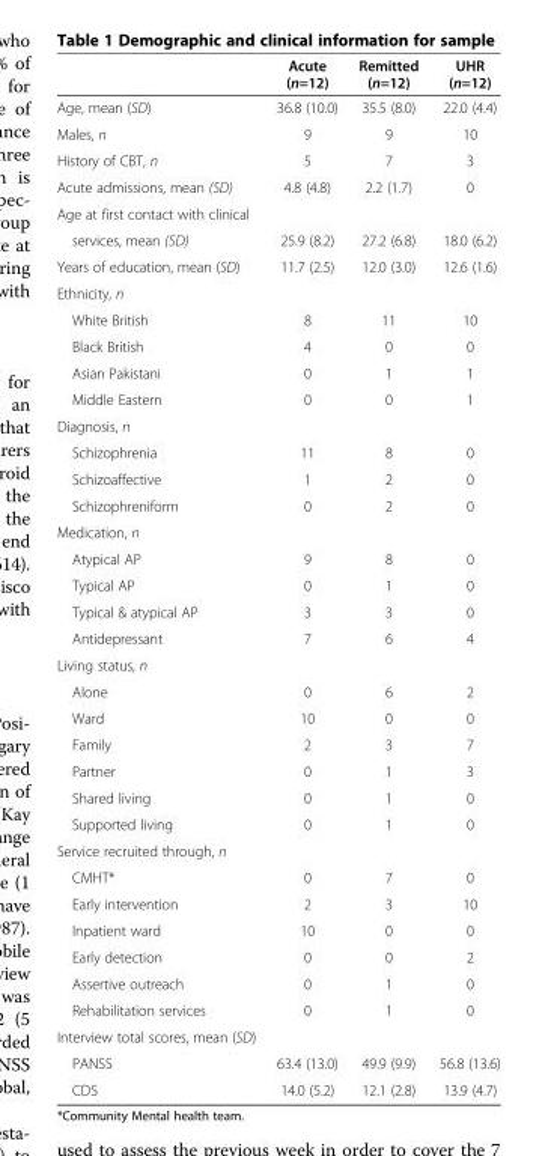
<table><thead><tr><td></td><td>Acute (n=12)</td><td>Remitted (n=12)</td><td>UHR (n=12)</td></tr></thead><tbody><tr><td>Age, mean (SD)</td><td>36.8 (10.0)</td><td>35.5 (8.0)</td><td>22.0 (4.4)</td></tr><tr><td>Males, n</td><td>9</td><td>9</td><td>10</td></tr><tr><td>History of CBT, n</td><td>5</td><td>7</td><td>3</td></tr><tr><td>Acute admissions, mean (SD)</td><td>4.8 (4.8)</td><td>2.2 (1.7)</td><td>0</td></tr><tr><td colspan="4">Age at first contact with clinical</td></tr><tr><td>services, mean (SD)</td><td>25.9 (8.2)</td><td>27.2 (6.8)</td><td>18.0 (6.2)</td></tr><tr><td>Years of education, mean (SD)</td><td>11.7 (2.5)</td><td>12.0 (3.0)</td><td>12.6 (1.6)</td></tr><tr><td colspan="4">Ethnicity, n</td></tr><tr><td>White British</td><td>8</td><td>11</td><td>10</td></tr><tr><td>Black British</td><td>4</td><td>0</td><td>0</td></tr><tr><td>Asian Pakistani</td><td>0</td><td>1</td><td>1</td></tr><tr><td>Middle Eastern</td><td>0</td><td>0</td><td>1</td></tr><tr><td colspan="4">Diagnosis, n</td></tr><tr><td>Schizophrenia</td><td>11</td><td>8</td><td>0</td></tr><tr><td>Schizoaffective</td><td>1</td><td>2</td><td>0</td></tr><tr><td>Schizophreniform</td><td>0</td><td>2</td><td>0</td></tr><tr><td colspan="4">Medication, n</td></tr><tr><td>Atypical AP</td><td>9</td><td>8</td><td>0</td></tr><tr><td>Typical AP</td><td>0</td><td>1</td><td>0</td></tr><tr><td>Typical &amp; atypical AP</td><td>3</td><td>3</td><td>0</td></tr><tr><td>Antidepressant</td><td>7</td><td>6</td><td>4</td></tr><tr><td colspan="4">Living status, n</td></tr><tr><td>Alone</td><td>0</td><td>6</td><td>2</td></tr><tr><td>Ward</td><td>10</td><td>0</td><td>0</td></tr><tr><td>Family</td><td>2</td><td>3</td><td>7</td></tr><tr><td>Partner</td><td>0</td><td>1</td><td>3</td></tr><tr><td>Shared living</td><td>0</td><td>1</td><td>0</td></tr><tr><td>Supported living</td><td>0</td><td>1</td><td>0</td></tr><tr><td colspan="4">Service recruited through, n</td></tr><tr><td>CMHT*</td><td>0</td><td>7</td><td>0</td></tr><tr><td>Early intervention</td><td>2</td><td>3</td><td>10</td></tr><tr><td>Inpatient ward</td><td>10</td><td>0</td><td>0</td></tr><tr><td>Early detection</td><td>0</td><td>0</td><td>2</td></tr><tr><td>Assertive outreach</td><td>0</td><td>1</td><td>0</td></tr><tr><td>Rehabilitation services</td><td>0</td><td>1</td><td>0</td></tr><tr><td colspan="4">Interview total scores, mean (SD)</td></tr><tr><td>PANSS</td><td>63.4 (13.0)</td><td>49.9 (9.9)</td><td>56.8 (13.6)</td></tr><tr><td>CDS</td><td>14.0 (5.2)</td><td>12.1 (2.8)</td><td>13.9 (4.7)</td></tr></tbody></table>